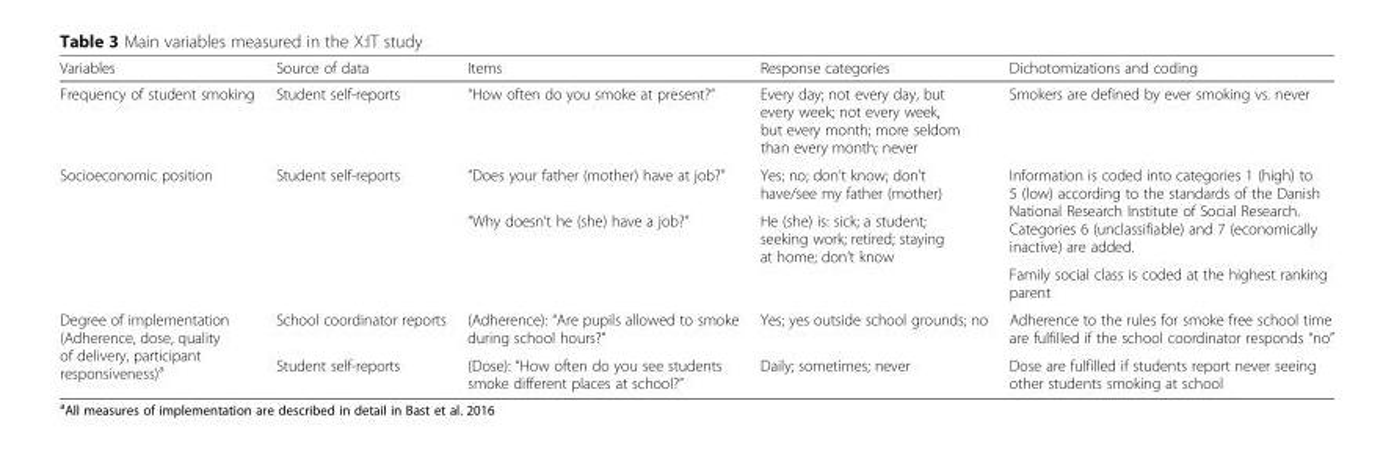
<table><thead><tr><td>Variables</td><td>Source of data</td><td>Items</td><td>Response categories</td><td>Dichotomizations and coding</td></tr></thead><tbody><tr><td>Frequency of student smoking</td><td>Student self-reports</td><td>“How often do you smoke at present?”</td><td>Every day; not every day, but every week; not every week, but every month; more seldom than every month; never</td><td>Smokers are defined by ever smoking vs. never</td></tr><tr><td rowspan="3">Socioeconomic position</td><td>Student self-reports</td><td>“Does your father (mother) have at job?”</td><td>Yes; no; don’t know; don’t have/see my father (mother)</td><td rowspan="2">Information is coded into categories 1 (high) to 5 (low) according to the standards of the Danish National Research Institute of Social Research. Categories 6 (unclassifiable) and 7 (economically inactive) are added.</td></tr><tr><td rowspan="2"></td><td rowspan="2">“Why doesn’t he (she) have a job?”</td><td rowspan="2">He (she) is: sick; a student; seeking work; retired; staying at home; don’t know</td></tr><tr><td>Family social class is coded at the highest ranking parent</td></tr><tr><td rowspan="2">Degree of implementation (Adherence, dose, quality of delivery, participant responsiveness)<sup>a</sup></td><td>School coordinator reports</td><td>(Adherence): “Are pupils allowed to smoke during school hours?”</td><td>Yes; yes outside school grounds; no</td><td>Adherence to the rules for smoke free school time are fulfilled if the school coordinator responds “no”</td></tr><tr><td>Student self-reports</td><td>(Dose): “How often do you see students smoke different places at school?”</td><td>Daily; sometimes; never</td><td>Dose are fulfilled if students report never seeing other students smoking at school</td></tr></tbody></table>